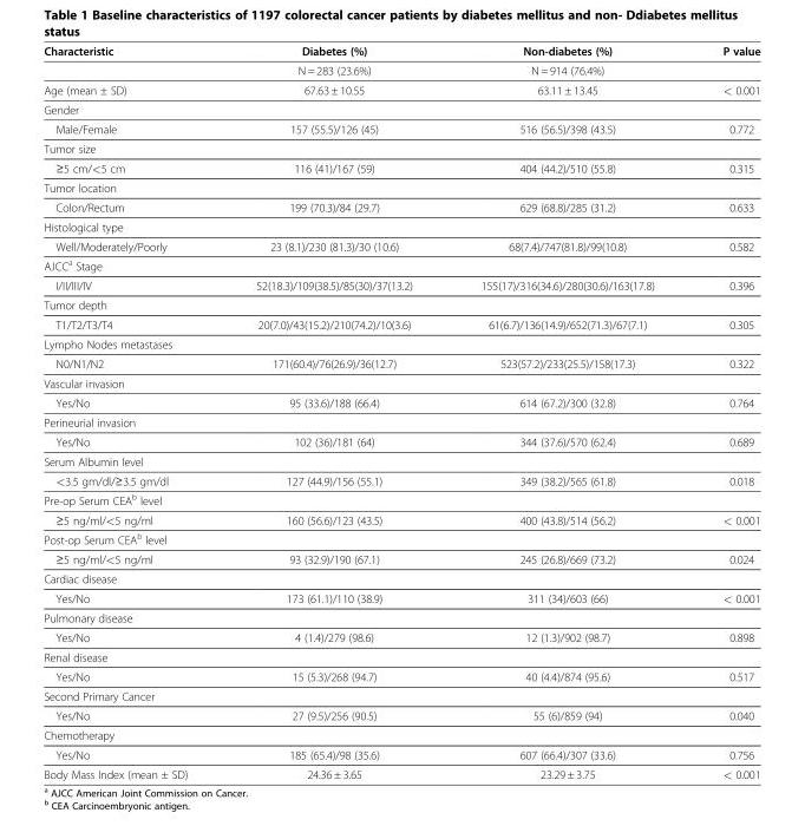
<table><thead><tr><td>Characteristic</td><td>Diabetes (%)</td><td>Non-diabetes (%)</td><td>P value</td></tr></thead><tbody><tr><td></td><td>N = 283 (23.6%)</td><td>N = 914 (76.4%)</td><td></td></tr><tr><td>Age (mean ± SD)</td><td>67.63 ± 10.55</td><td>63.11 ± 13.45</td><td>&lt; 0.001</td></tr><tr><td colspan="4">Gender</td></tr><tr><td>Male/Female</td><td>157 (55.5)/126 (45)</td><td>516 (56.5)/398 (43.5)</td><td>0.772</td></tr><tr><td colspan="4">Tumor size</td></tr><tr><td>≥5 cm/&lt;5 cm</td><td>116 (41)/167 (59)</td><td>404 (44.2)/510 (55.8)</td><td>0.315</td></tr><tr><td colspan="4">Tumor location</td></tr><tr><td>Colon/Rectum</td><td>199 (70.3)/84 (29.7)</td><td>629 (68.8)/285 (31.2)</td><td>0.633</td></tr><tr><td colspan="4">Histological type</td></tr><tr><td>Well/Moderately/Poorly</td><td>23 (8.1)/230 (81.3)/30 (10.6)</td><td>68(7.4)/747(81.8)/99(10.8)</td><td>0.582</td></tr><tr><td colspan="4">AJCC<sup>a</sup> Stage</td></tr><tr><td>I/II/III/IV</td><td>52(18.3)/109(38.5)/85(30)/37(13.2)</td><td>155(17)/316(34.6)/280(30.6)/163(17.8)</td><td>0.396</td></tr><tr><td colspan="4">Tumor depth</td></tr><tr><td>T1/T2/T3/T4</td><td>20(7.0)/43(15.2)/210(74.2)/10(3.6)</td><td>61(6.7)/136(14.9)/652(71.3)/67(7.1)</td><td>0.305</td></tr><tr><td colspan="4">Lympho Nodes metastases</td></tr><tr><td>N0/N1/N2</td><td>171(60.4)/76(26.9)/36(12.7)</td><td>523(57.2)/233(25.5)/158(17.3)</td><td>0.322</td></tr><tr><td colspan="4">Vascular invasion</td></tr><tr><td>Yes/No</td><td>95 (33.6)/188 (66.4)</td><td>614 (67.2)/300 (32.8)</td><td>0.764</td></tr><tr><td colspan="4">Perineurial invasion</td></tr><tr><td>Yes/No</td><td>102 (36)/181 (64)</td><td>344 (37.6)/570 (62.4)</td><td>0.689</td></tr><tr><td colspan="4">Serum Albumin level</td></tr><tr><td>&lt;3.5 gm/dl/≥3.5 gm/dl</td><td>127 (44.9)/156 (55.1)</td><td>349 (38.2)/565 (61.8)</td><td>0.018</td></tr><tr><td colspan="4">Pre-op Serum CEA<sup>b</sup> level</td></tr><tr><td>≥5 ng/ml/&lt;5 ng/ml</td><td>160 (56.6)/123 (43.5)</td><td>400 (43.8)/514 (56.2)</td><td>&lt; 0.001</td></tr><tr><td colspan="4">Post-op Serum CEA<sup>b</sup> level</td></tr><tr><td>≥5 ng/ml/&lt;5 ng/ml</td><td>93 (32.9)/190 (67.1)</td><td>245 (26.8)/669 (73.2)</td><td>0.024</td></tr><tr><td colspan="4">Cardiac disease</td></tr><tr><td>Yes/No</td><td>173 (61.1)/110 (38.9)</td><td>311 (34)/603 (66)</td><td>&lt; 0.001</td></tr><tr><td colspan="4">Pulmonary disease</td></tr><tr><td>Yes/No</td><td>4 (1.4)/279 (98.6)</td><td>12 (1.3)/902 (98.7)</td><td>0.898</td></tr><tr><td colspan="4">Renal disease</td></tr><tr><td>Yes/No</td><td>15 (5.3)/268 (94.7)</td><td>40 (4.4)/874 (95.6)</td><td>0.517</td></tr><tr><td colspan="4">Second Primary Cancer</td></tr><tr><td>Yes/No</td><td>27 (9.5)/256 (90.5)</td><td>55 (6)/859 (94)</td><td>0.040</td></tr><tr><td colspan="4">Chemotherapy</td></tr><tr><td>Yes/No</td><td>185 (65.4)/98 (35.6)</td><td>607 (66.4)/307 (33.6)</td><td>0.756</td></tr><tr><td>Body Mass Index (mean ± SD)</td><td>24.36 ± 3.65</td><td>23.29 ± 3.75</td><td>&lt; 0.001</td></tr></tbody></table>